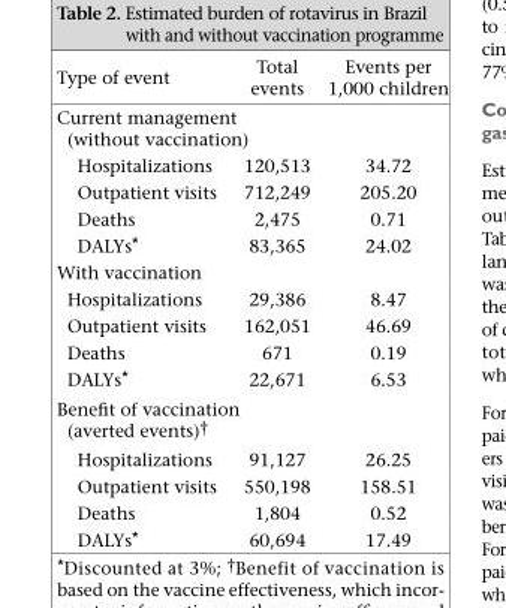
<table><thead><tr><td>Type of event</td><td>Total events</td><td>Events per 1,000 children</td></tr></thead><tbody><tr><td colspan="3">Current management (without vaccination)</td></tr><tr><td>Hospitalizations</td><td>120,513</td><td>34.72</td></tr><tr><td>Outpatient visits</td><td>712,249</td><td>205.20</td></tr><tr><td>Deaths</td><td>2,475</td><td>0.71</td></tr><tr><td>DALYs*</td><td>83,365</td><td>24.02</td></tr><tr><td colspan="3">With vaccination</td></tr><tr><td>Hospitalizations</td><td>29,386</td><td>8.47</td></tr><tr><td>Outpatient visits</td><td>162,051</td><td>46.69</td></tr><tr><td>Deaths</td><td>671</td><td>0.19</td></tr><tr><td>DALYs*</td><td>22,671</td><td>6.53</td></tr><tr><td colspan="3">Benefit of vaccination (averted events)†</td></tr><tr><td>Hospitalizations</td><td>91,127</td><td>26.25</td></tr><tr><td>Outpatient visits</td><td>550,198</td><td>158.51</td></tr><tr><td>Deaths</td><td>1,804</td><td>0.52</td></tr><tr><td>DALYs*</td><td>60,694</td><td>17.49</td></tr></tbody></table>